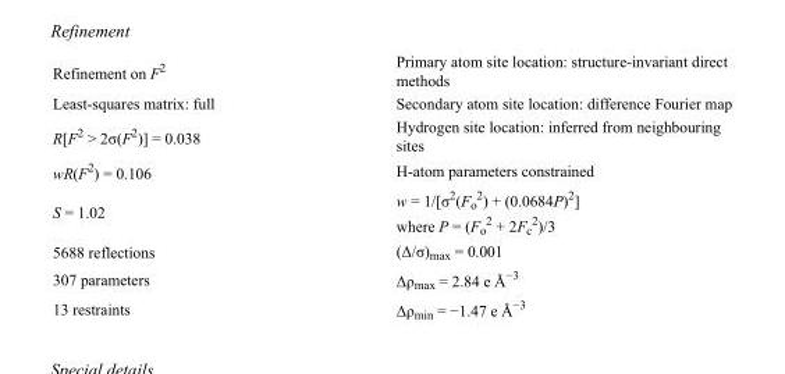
<table><tbody><tr><td>Refinement on F<sup>2</sup></td><td>Primary atom site location: structure-invariant direct methods</td></tr><tr><td>Least-squares matrix: full</td><td>Secondary atom site location: difference Fourier map</td></tr><tr><td>R[F<sup>2</sup> &gt; 2σ(F<sup>2</sup>)] = 0.038</td><td>Hydrogen site location: inferred from neighbouring sites</td></tr><tr><td>wR(F<sup>2</sup>) = 0.106</td><td>H-atom parameters constrained</td></tr><tr><td>S = 1.02</td><td>w = 1/[σ<sup>2</sup>(F<sub>o</sub> <sup>2</sup>) + (0.0684P)<sup>2</sup>] where P = (F<sub>o</sub> <sup>2</sup> + 2F<sub>c</sub> <sup>2</sup>)/3</td></tr><tr><td>5688 reflections</td><td>(Δ/σ)<sub>max</sub> = 0.001</td></tr><tr><td>307 parameters</td><td>Δρ<sub>max</sub> = 2.84 e Å<sup>−3</sup></td></tr><tr><td>13 restraints</td><td>Δρ<sub>min</sub> = −1.47 e Å<sup>−3</sup></td></tr></tbody></table>